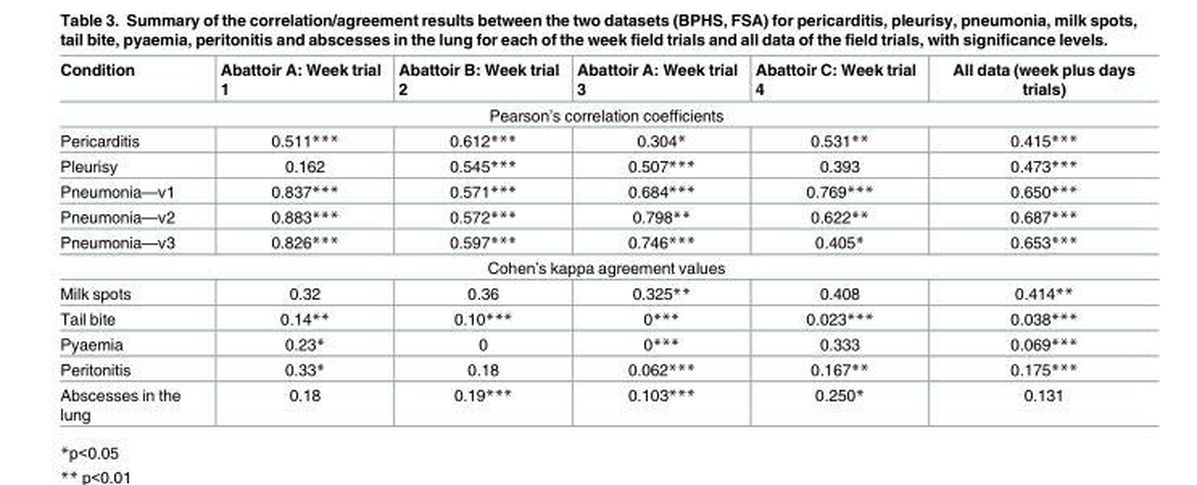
<table><thead><tr><td>Condition</td><td>Abattoir A: Week trial 1</td><td>Abattoir B: Week trial 2</td><td>Abattoir A: Week trial 3</td><td>Abattoir C: Week trial 4</td><td>All data (week plus days trials)</td></tr></thead><tbody><tr><td colspan="6">Pearson’s correlation coefficients</td></tr><tr><td>Pericarditis</td><td>0.511***</td><td>0.612***</td><td>0.304*</td><td>0.531**</td><td>0.415***</td></tr><tr><td>Pleurisy</td><td>0.162</td><td>0.545***</td><td>0.507***</td><td>0.393</td><td>0.473***</td></tr><tr><td>Pneumonia—v1</td><td>0.837***</td><td>0.571***</td><td>0.684***</td><td>0.769***</td><td>0.650***</td></tr><tr><td>Pneumonia—v2</td><td>0.883***</td><td>0.572***</td><td>0.798**</td><td>0.622**</td><td>0.687***</td></tr><tr><td>Pneumonia—v3</td><td>0.826***</td><td>0.597***</td><td>0.746***</td><td>0.405*</td><td>0.653***</td></tr><tr><td colspan="6">Cohen’s kappa agreement values</td></tr><tr><td>Milk spots</td><td>0.32</td><td>0.36</td><td>0.325**</td><td>0.408</td><td>0.414**</td></tr><tr><td>Tail bite</td><td>0.14**</td><td>0.10***</td><td>0***</td><td>0.023***</td><td>0.038***</td></tr><tr><td>Pyaemia</td><td>0.23*</td><td>0</td><td>0***</td><td>0.333</td><td>0.069***</td></tr><tr><td>Peritonitis</td><td>0.33*</td><td>0.18</td><td>0.062***</td><td>0.167**</td><td>0.175***</td></tr><tr><td>Abscesses in the lung</td><td>0.18</td><td>0.19***</td><td>0.103***</td><td>0.250*</td><td>0.131</td></tr></tbody></table>